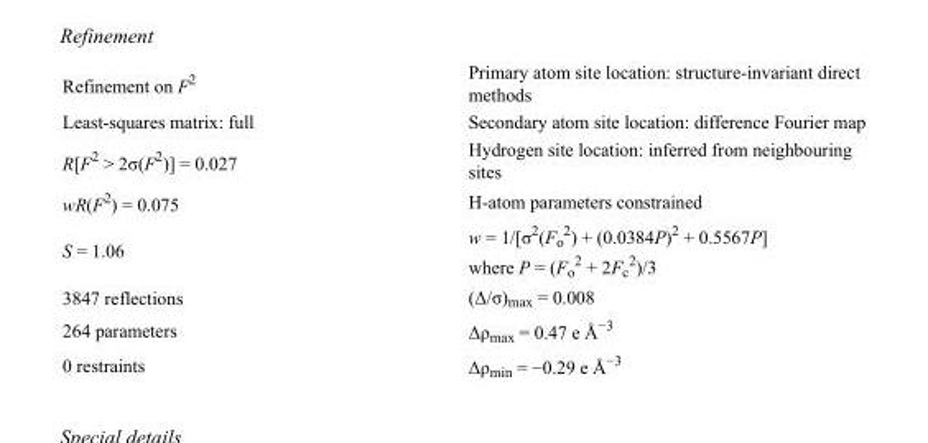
<table><tbody><tr><td>Refinement on F<sup>2</sup></td><td>Primary atom site location: structure-invariant direct methods</td></tr><tr><td>Least-squares matrix: full</td><td>Secondary atom site location: difference Fourier map</td></tr><tr><td>R[F<sup>2</sup> &gt; 2σ(F<sup>2</sup>)] = 0.027</td><td>Hydrogen site location: inferred from neighbouring sites</td></tr><tr><td>wR(F<sup>2</sup>) = 0.075</td><td>H-atom parameters constrained</td></tr><tr><td>S = 1.06</td><td>w = 1/[σ<sup>2</sup>(F<sub>o</sub> <sup>2</sup>) + (0.0384P)<sup>2</sup> + 0.5567P] where P = (F<sub>o</sub> <sup>2</sup> + 2F<sub>c</sub> <sup>2</sup>)/3</td></tr><tr><td>3847 reflections</td><td>(Δ/σ)<sub>max</sub> = 0.008</td></tr><tr><td>264 parameters</td><td>Δρ<sub>max</sub> = 0.47 e Å<sup>−3</sup></td></tr><tr><td>0 restraints</td><td>Δρ<sub>min</sub> = −0.29 e Å<sup>−3</sup></td></tr></tbody></table>